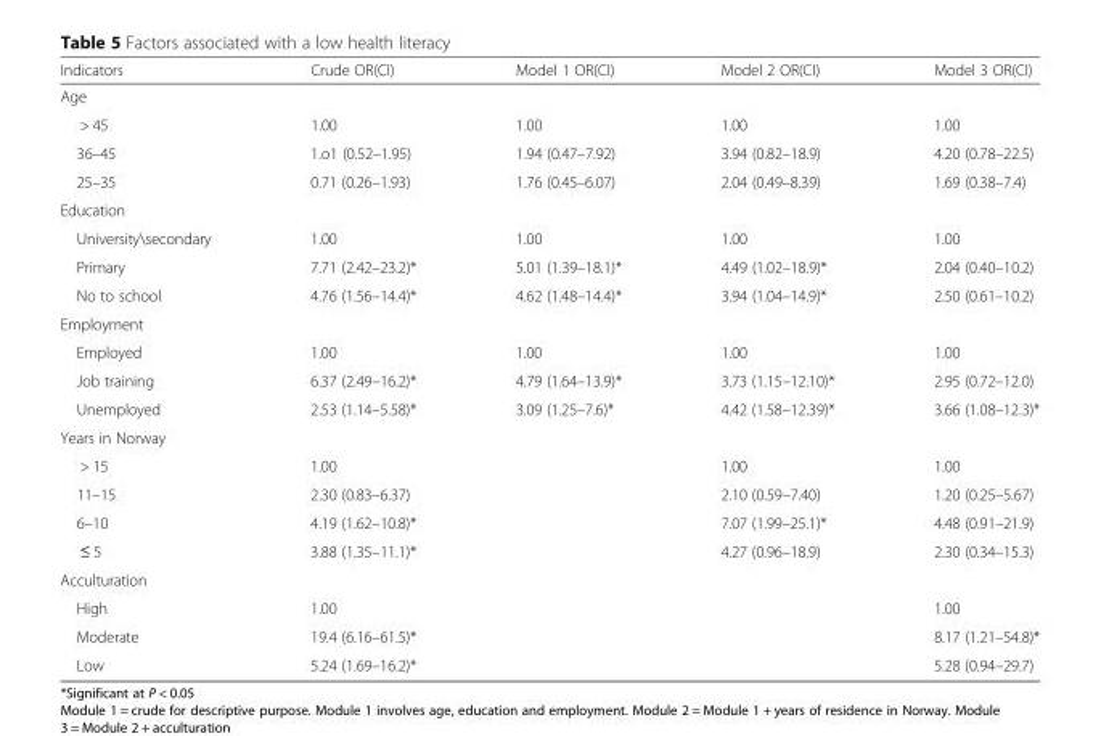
<table><thead><tr><td>Indicators</td><td>Crude OR(CI)</td><td>Model 1 OR(CI)</td><td>Model 2 OR(CI)</td><td>Model 3 OR(CI)</td></tr></thead><tbody><tr><td colspan="5">Age</td></tr><tr><td>&gt; 45</td><td>1.00</td><td>1.00</td><td>1.00</td><td>1.00</td></tr><tr><td>36–45</td><td>1.o1 (0.52–1.95)</td><td>1.94 (0.47–7.92)</td><td>3.94 (0.82–18.9)</td><td>4.20 (0.78–22.5)</td></tr><tr><td>25–35</td><td>0.71 (0.26–1.93)</td><td>1.76 (0.45–6.07)</td><td>2.04 (0.49–8.39)</td><td>1.69 (0.38–7.4)</td></tr><tr><td colspan="5">Education</td></tr><tr><td>University\secondary</td><td>1.00</td><td>1.00</td><td>1.00</td><td>1.00</td></tr><tr><td>Primary</td><td>7.71 (2.42–23.2)*</td><td>5.01 (1.39–18.1)*</td><td>4.49 (1.02–18.9)*</td><td>2.04 (0.40–10.2)</td></tr><tr><td>No to school</td><td>4.76 (1.56–14.4)*</td><td>4.62 (1.48–14.4)*</td><td>3.94 (1.04–14.9)*</td><td>2.50 (0.61–10.2)</td></tr><tr><td colspan="5">Employment</td></tr><tr><td>Employed</td><td>1.00</td><td>1.00</td><td>1.00</td><td>1.00</td></tr><tr><td>Job training</td><td>6.37 (2.49–16.2)*</td><td>4.79 (1.64–13.9)*</td><td>3.73 (1.15–12.10)*</td><td>2.95 (0.72–12.0)</td></tr><tr><td>Unemployed</td><td>2.53 (1.14–5.58)*</td><td>3.09 (1.25–7.6)*</td><td>4.42 (1.58–12.39)*</td><td>3.66 (1.08–12.3)*</td></tr><tr><td colspan="5">Years in Norway</td></tr><tr><td>&gt; 15</td><td>1.00</td><td></td><td>1.00</td><td>1.00</td></tr><tr><td>11–15</td><td>2.30 (0.83–6.37)</td><td></td><td>2.10 (0.59–7.40)</td><td>1.20 (0.25–5.67)</td></tr><tr><td>6–10</td><td>4.19 (1.62–10.8)*</td><td></td><td>7.07 (1.99–25.1)*</td><td>4.48 (0.91–21.9)</td></tr><tr><td>≤ 5</td><td>3.88 (1.35–11.1)*</td><td></td><td>4.27 (0.96–18.9)</td><td>2.30 (0.34–15.3)</td></tr><tr><td colspan="5">Acculturation</td></tr><tr><td>High</td><td>1.00</td><td></td><td></td><td>1.00</td></tr><tr><td>Moderate</td><td>19.4 (6.16–61.5)*</td><td></td><td></td><td>8.17 (1.21–54.8)*</td></tr><tr><td>Low</td><td>5.24 (1.69–16.2)*</td><td></td><td></td><td>5.28 (0.94–29.7)</td></tr></tbody></table>